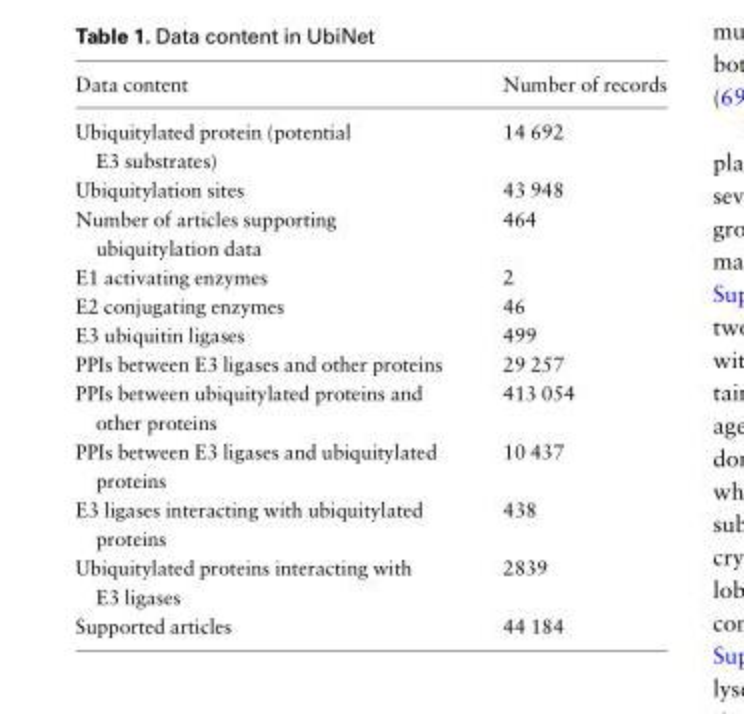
<table><thead><tr><td>Data content</td><td>Number of records</td></tr></thead><tbody><tr><td>Ubiquitylated protein (potential E3 substrates)</td><td>14 692</td></tr><tr><td>Ubiquitylation sites</td><td>43 948</td></tr><tr><td>Number of articles supporting ubiquitylation data</td><td>464</td></tr><tr><td>E1 activating enzymes</td><td>2</td></tr><tr><td>E2 conjugating enzymes</td><td>46</td></tr><tr><td>E3 ubiquitin ligases</td><td>499</td></tr><tr><td>PPIs between E3 ligases and other proteins</td><td>29 257</td></tr><tr><td>PPIs between ubiquitylated proteins and other proteins</td><td>413 054</td></tr><tr><td>PPIs between E3 ligases and ubiquitylated proteins</td><td>10 437</td></tr><tr><td>E3 ligases interacting with ubiquitylated proteins</td><td>438</td></tr><tr><td>Ubiquitylated proteins interacting with E3 ligases</td><td>2839</td></tr><tr><td>Supported articles</td><td>44 184</td></tr></tbody></table>